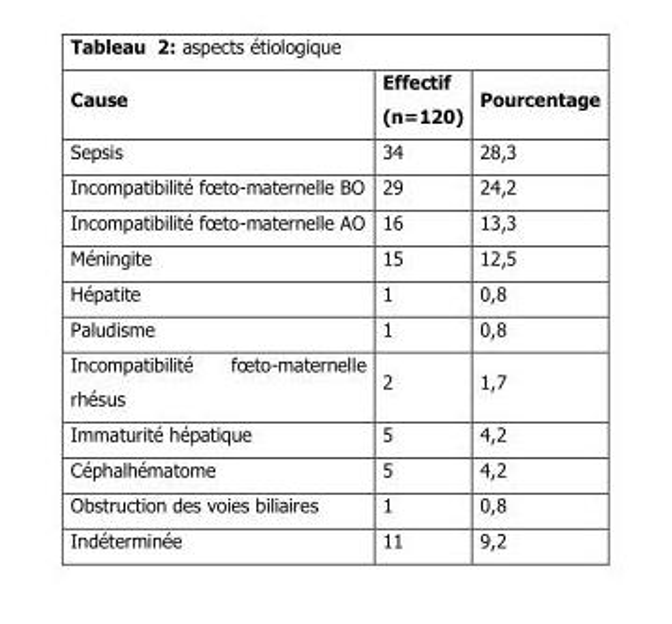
<table><thead><tr><td>Cause</td><td>Effectif (n=120)</td><td>Pourcentage</td></tr></thead><tbody><tr><td>Sepsis</td><td>34</td><td>28,3</td></tr><tr><td>Incompatibilité fœto-maternelle BO</td><td>29</td><td>24,2</td></tr><tr><td>Incompatibilité fœto-maternelle AO</td><td>16</td><td>13,3</td></tr><tr><td>Méningite</td><td>15</td><td>12,5</td></tr><tr><td>Hépatite</td><td>1</td><td>0,8</td></tr><tr><td>Paludisme</td><td>1</td><td>0,8</td></tr><tr><td>Incompatibilité fœto-maternelle rhésus</td><td>2</td><td>1,7</td></tr><tr><td>Immaturité hépatique</td><td>5</td><td>4,2</td></tr><tr><td>Céphalhématome</td><td>5</td><td>4,2</td></tr><tr><td>Obstruction des voies biliaires</td><td>1</td><td>0,8</td></tr><tr><td>Indéterminée</td><td>11</td><td>9,2</td></tr></tbody></table>